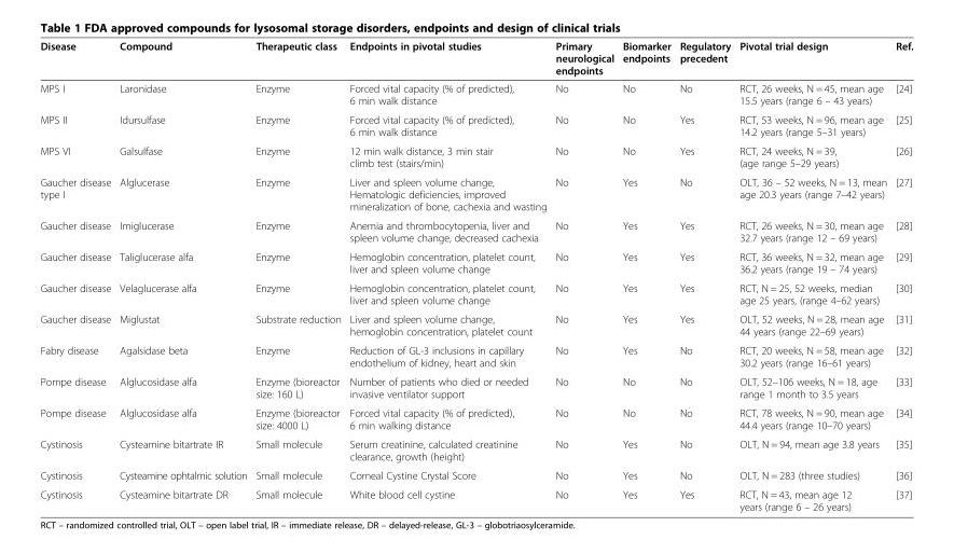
<table><thead><tr><td>Disease</td><td>Compound</td><td>Therapeutic class</td><td>Endpoints in pivotal studies</td><td>Primary neurological endpoints</td><td>Biomarker endpoints</td><td>Regulatory precedent</td><td>Pivotal trial design</td><td>Ref.</td></tr></thead><tbody><tr><td>MPS I</td><td>Laronidase</td><td>Enzyme</td><td>Forced vital capacity (% of predicted), 6 min walk distance</td><td>No</td><td>No</td><td>No</td><td>RCT, 26 weeks, N = 45, mean age 15.5 years (range 6 – 43 years)</td><td>[24]</td></tr><tr><td>MPS II</td><td>Idursulfase</td><td>Enzyme</td><td>Forced vital capacity (% of predicted), 6 min walk distance</td><td>No</td><td>No</td><td>Yes</td><td>RCT, 53 weeks, N = 96, mean age 14.2 years (range 5–31 years)</td><td>[25]</td></tr><tr><td>MPS VI</td><td>Galsulfase</td><td>Enzyme</td><td>12 min walk distance, 3 min stair climb test (stairs/min)</td><td>No</td><td>No</td><td>Yes</td><td>RCT, 24 weeks, N = 39, (age range 5–29 years)</td><td>[26]</td></tr><tr><td>Gaucher disease type I</td><td>Alglucerase</td><td>Enzyme</td><td>Liver and spleen volume change, Hematologic deficiencies, improved mineralization of bone, cachexia and wasting</td><td>No</td><td>Yes</td><td>No</td><td>OLT, 36 – 52 weeks, N = 13, mean age 20.3 years (range 7–42 years)</td><td>[27]</td></tr><tr><td>Gaucher disease</td><td>Imiglucerase</td><td>Enzyme</td><td>Anemia and thrombocytopenia, liver and spleen volume change, decreased cachexia</td><td>No</td><td>Yes</td><td>Yes</td><td>RCT, 26 weeks, N = 30, mean age 32.7 years (range 12 – 69 years)</td><td>[28]</td></tr><tr><td>Gaucher disease</td><td>Taliglucerase alfa</td><td>Enzyme</td><td>Hemoglobin concentration, platelet count, liver and spleen volume change</td><td>No</td><td>Yes</td><td>Yes</td><td>RCT, 36 weeks, N = 32, mean age 36.2 years (range 19 – 74 years)</td><td>[29]</td></tr><tr><td>Gaucher disease</td><td>Velaglucerase alfa</td><td>Enzyme</td><td>Hemoglobin concentration, platelet count, liver and spleen volume change</td><td>No</td><td>Yes</td><td>Yes</td><td>RCT, N = 25, 52 weeks, median age 25 years, (range 4–62 years)</td><td>[30]</td></tr><tr><td>Gaucher disease</td><td>Miglustat</td><td>Substrate reduction</td><td>Liver and spleen volume change, hemoglobin concentration, platelet count</td><td>No</td><td>Yes</td><td>Yes</td><td>OLT, 52 weeks, N = 28, mean age 44 years (range 22–69 years)</td><td>[31]</td></tr><tr><td>Fabry disease</td><td>Agalsidase beta</td><td>Enzyme</td><td>Reduction of GL-3 inclusions in capillary endothelium of kidney, heart and skin</td><td>No</td><td>Yes</td><td>No</td><td>RCT, 20 weeks, N = 58, mean age 30.2 years (range 16–61 years)</td><td>[32]</td></tr><tr><td>Pompe disease</td><td>Alglucosidase alfa</td><td>Enzyme (bioreactor size: 160 L)</td><td>Number of patients who died or needed invasive ventilator support</td><td>No</td><td>No</td><td>No</td><td>OLT, 52–106 weeks, N = 18, age range 1 month to 3.5 years</td><td>[33]</td></tr><tr><td>Pompe disease</td><td>Alglucosidase alfa</td><td>Enzyme (bioreactor size: 4000 L)</td><td>Forced vital capacity (% of predicted), 6 min walking distance</td><td>No</td><td>No</td><td>No</td><td>RCT, 78 weeks, N = 90, mean age 44.4 years (range 10–70 years)</td><td>[34]</td></tr><tr><td>Cystinosis</td><td>Cysteamine bitartrate IR</td><td>Small molecule</td><td>Serum creatinine, calculated creatinine clearance, growth (height)</td><td>No</td><td>Yes</td><td>No</td><td>OLT, N = 94, mean age 3.8 years</td><td>[35]</td></tr><tr><td>Cystinosis</td><td>Cysteamine ophtalmic solution</td><td>Small molecule</td><td>Corneal Cystine Crystal Score</td><td>No</td><td>Yes</td><td>No</td><td>OLT, N = 283 (three studies)</td><td>[36]</td></tr><tr><td>Cystinosis</td><td>Cysteamine bitartrate DR</td><td>Small molecule</td><td>White blood cell cystine</td><td>No</td><td>Yes</td><td>Yes</td><td>RCT, N = 43, mean age 12 years (range 6 – 26 years)</td><td>[37]</td></tr></tbody></table>